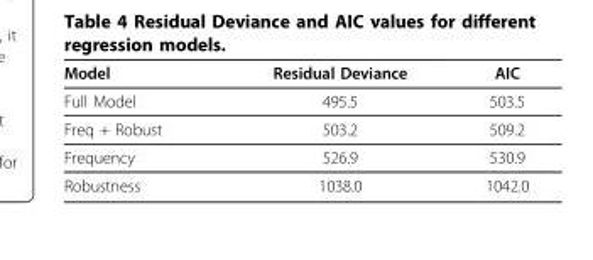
<table><thead><tr><td>Model</td><td>Residual Deviance</td><td>AIC</td></tr></thead><tbody><tr><td>Full Model</td><td>495.5</td><td>503.5</td></tr><tr><td>Freq + Robust</td><td>503.2</td><td>509.2</td></tr><tr><td>Frequency</td><td>526.9</td><td>530.9</td></tr><tr><td>Robustness</td><td>1038.0</td><td>1042.0</td></tr></tbody></table>